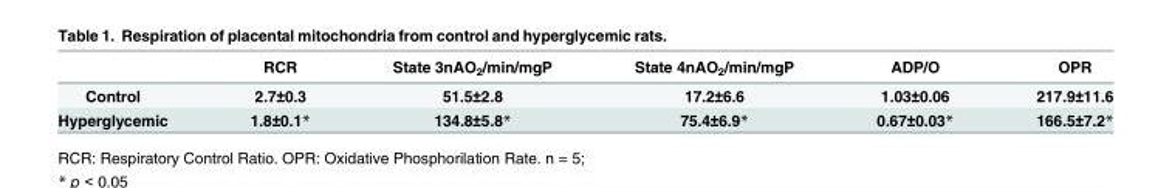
<table><thead><tr><td></td><td>RCR</td><td>State 3nAO<sub>2</sub>/min/mgP</td><td>State 4nAO<sub>2</sub>/min/mgP</td><td>ADP/O</td><td>OPR</td></tr></thead><tbody><tr><td>Control</td><td>2.7±0.3</td><td>51.5±2.8</td><td>17.2±6.6</td><td>1.03±0.06</td><td>217.9±11.6</td></tr><tr><td>Hyperglycemic</td><td>1.8±0.1*</td><td>134.8±5.8*</td><td>75.4±6.9*</td><td>0.67±0.03*</td><td>166.5±7.2*</td></tr></tbody></table>